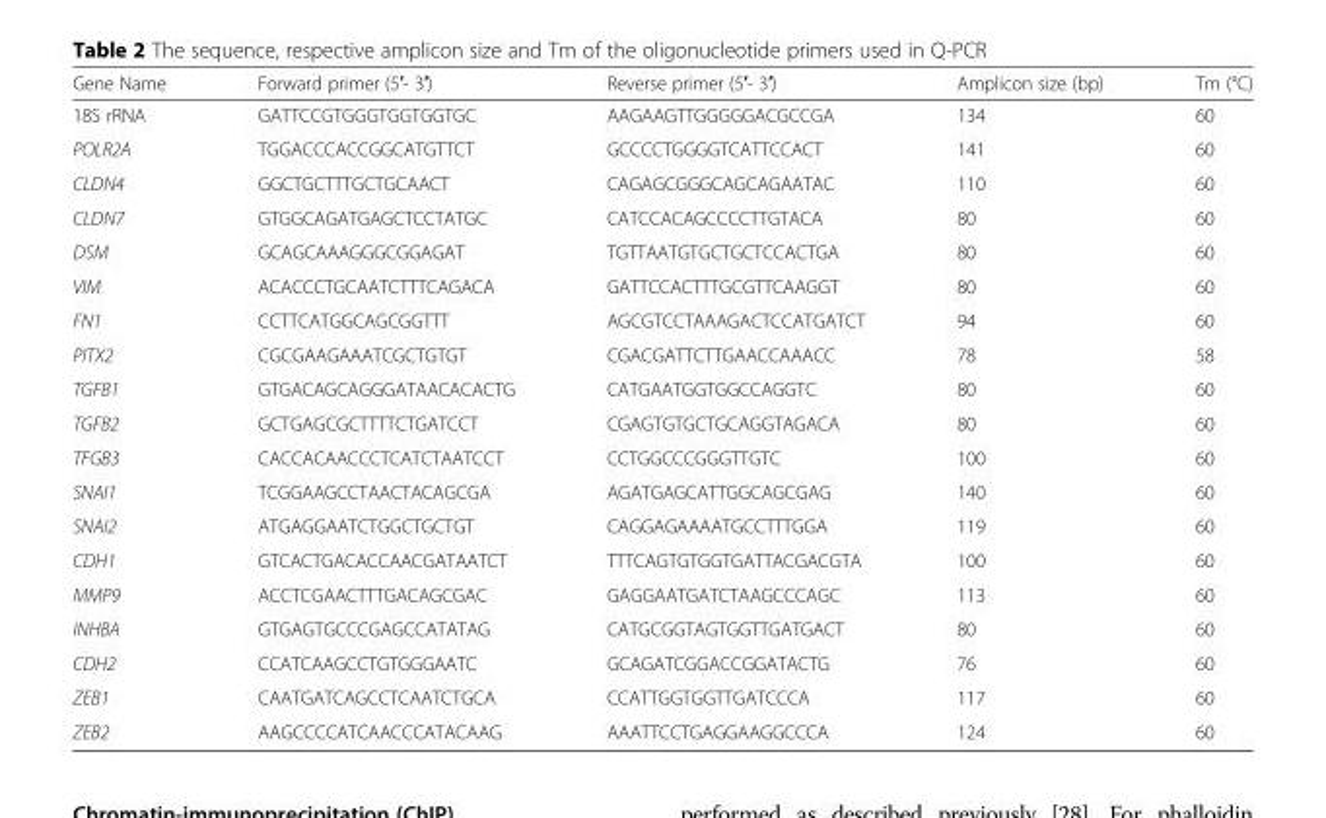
<table><thead><tr><td>Gene Name</td><td>Forward primer (5′- 3′)</td><td>Reverse primer (5′- 3′)</td><td>Amplicon size (bp)</td><td>Tm (°C)</td></tr></thead><tbody><tr><td>18S rRNA</td><td>GATTCCGTGGGTGGTGGTGC</td><td>AAGAAGTTGGGGGACGCCGA</td><td>134</td><td>60</td></tr><tr><td>POLR2A</td><td>TGGACCCACCGGCATGTTCT</td><td>GCCCCTGGGGTCATTCCACT</td><td>141</td><td>60</td></tr><tr><td>CLDN4</td><td>GGCTGCTTTGCTGCAACT</td><td>CAGAGCGGGCAGCAGAATAC</td><td>110</td><td>60</td></tr><tr><td>CLDN7</td><td>GTGGCAGATGAGCTCCTATGC</td><td>CATCCACAGCCCCTTGTACA</td><td>80</td><td>60</td></tr><tr><td>DSM</td><td>GCAGCAAAGGGCGGAGAT</td><td>TGTTAATGTGCTGCTCCACTGA</td><td>80</td><td>60</td></tr><tr><td>VIM</td><td>ACACCCTGCAATCTTTCAGACA</td><td>GATTCCACTTTGCGTTCAAGGT</td><td>80</td><td>60</td></tr><tr><td>FN1</td><td>CCTTCATGGCAGCGGTTT</td><td>AGCGTCCTAAAGACTCCATGATCT</td><td>94</td><td>60</td></tr><tr><td>PITX2</td><td>CGCGAAGAAATCGCTGTGT</td><td>CGACGATTCTTGAACCAAACC</td><td>78</td><td>58</td></tr><tr><td>TGFB1</td><td>GTGACAGCAGGGATAACACACTG</td><td>CATGAATGGTGGCCAGGTC</td><td>80</td><td>60</td></tr><tr><td>TGFB2</td><td>GCTGAGCGCTTTTCTGATCCT</td><td>CGAGTGTGCTGCAGGTAGACA</td><td>80</td><td>60</td></tr><tr><td>TFGB3</td><td>CACCACAACCCTCATCTAATCCT</td><td>CCTGGCCCGGGTTGTC</td><td>100</td><td>60</td></tr><tr><td>SNAI1</td><td>TCGGAAGCCTAACTACAGCGA</td><td>AGATGAGCATTGGCAGCGAG</td><td>140</td><td>60</td></tr><tr><td>SNAI2</td><td>ATGAGGAATCTGGCTGCTGT</td><td>CAGGAGAAAATGCCTTTGGA</td><td>119</td><td>60</td></tr><tr><td>CDH1</td><td>GTCACTGACACCAACGATAATCT</td><td>TTTCAGTGTGGTGATTACGACGTA</td><td>100</td><td>60</td></tr><tr><td>MMP9</td><td>ACCTCGAACTTTGACAGCGAC</td><td>GAGGAATGATCTAAGCCCAGC</td><td>113</td><td>60</td></tr><tr><td>INHBA</td><td>GTGAGTGCCCGAGCCATATAG</td><td>CATGCGGTAGTGGTTGATGACT</td><td>80</td><td>60</td></tr><tr><td>CDH2</td><td>CCATCAAGCCTGTGGGAATC</td><td>GCAGATCGGACCGGATACTG</td><td>76</td><td>60</td></tr><tr><td>ZEB1</td><td>CAATGATCAGCCTCAATCTGCA</td><td>CCATTGGTGGTTGATCCCA</td><td>117</td><td>60</td></tr><tr><td>ZEB2</td><td>AAGCCCCATCAACCCATACAAG</td><td>AAATTCCTGAGGAAGGCCCA</td><td>124</td><td>60</td></tr></tbody></table>